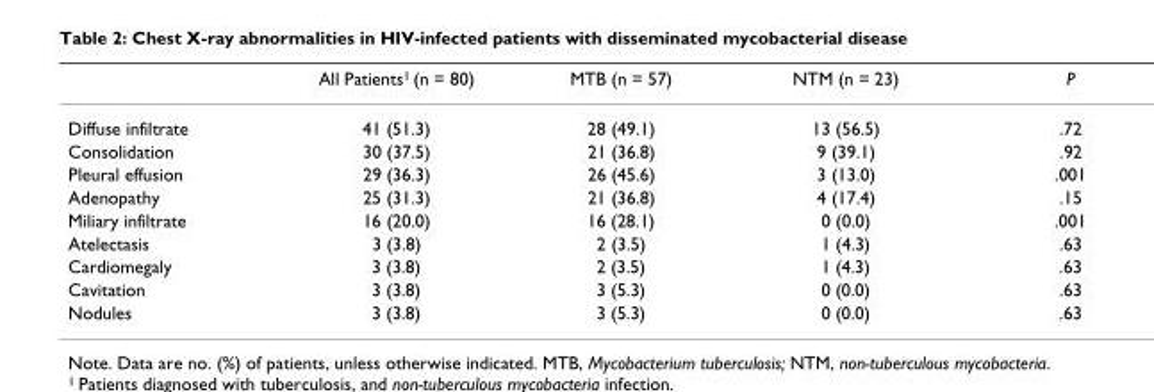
<table><thead><tr><td></td><td>All Patients<sup>1</sup> (n = 80)</td><td>MTB (n = 57)</td><td>NTM (n = 23)</td><td>P</td></tr></thead><tbody><tr><td>Diffuse infiltrate</td><td>41 (51.3)</td><td>28 (49.1)</td><td>13 (56.5)</td><td>.72</td></tr><tr><td>Consolidation</td><td>30 (37.5)</td><td>21 (36.8)</td><td>9 (39.1)</td><td>.92</td></tr><tr><td>Pleural effusion</td><td>29 (36.3)</td><td>26 (45.6)</td><td>3 (13.0)</td><td>.001</td></tr><tr><td>Adenopathy</td><td>25 (31.3)</td><td>21 (36.8)</td><td>4 (17.4)</td><td>.15</td></tr><tr><td>Miliary infiltrate</td><td>16 (20.0)</td><td>16 (28.1)</td><td>0 (0.0)</td><td>.001</td></tr><tr><td>Atelectasis</td><td>3 (3.8)</td><td>2 (3.5)</td><td>1 (4.3)</td><td>.63</td></tr><tr><td>Cardiomegaly</td><td>3 (3.8)</td><td>2 (3.5)</td><td>1 (4.3)</td><td>.63</td></tr><tr><td>Cavitation</td><td>3 (3.8)</td><td>3 (5.3)</td><td>0 (0.0)</td><td>.63</td></tr><tr><td>Nodules</td><td>3 (3.8)</td><td>3 (5.3)</td><td>0 (0.0)</td><td>.63</td></tr></tbody></table>